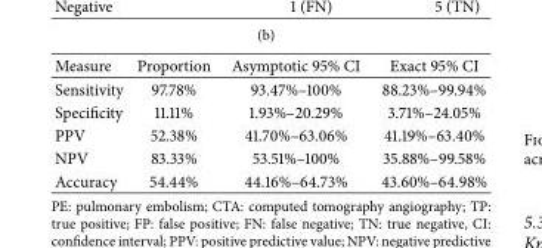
<table><thead><tr><td>Measure</td><td>Proportion</td><td>Asymptotic 95% CI</td><td>Exact 95% CI</td></tr></thead><tbody><tr><td>Sensitivity</td><td>97.78%</td><td>93.47%–100%</td><td>88.23%–99.94%</td></tr><tr><td>Specificity</td><td>11.11%</td><td>1.93%–20.29%</td><td>3.71%–24.05%</td></tr><tr><td>PPV</td><td>52.38%</td><td>41.70%–63.06%</td><td>41.19%–63.40%</td></tr><tr><td>NPV</td><td>83.33%</td><td>53.51%–100%</td><td>35.88%–99.58%</td></tr><tr><td>Accuracy</td><td>54.44%</td><td>44.16%–64.73%</td><td>43.60%–64.98%</td></tr></tbody></table>